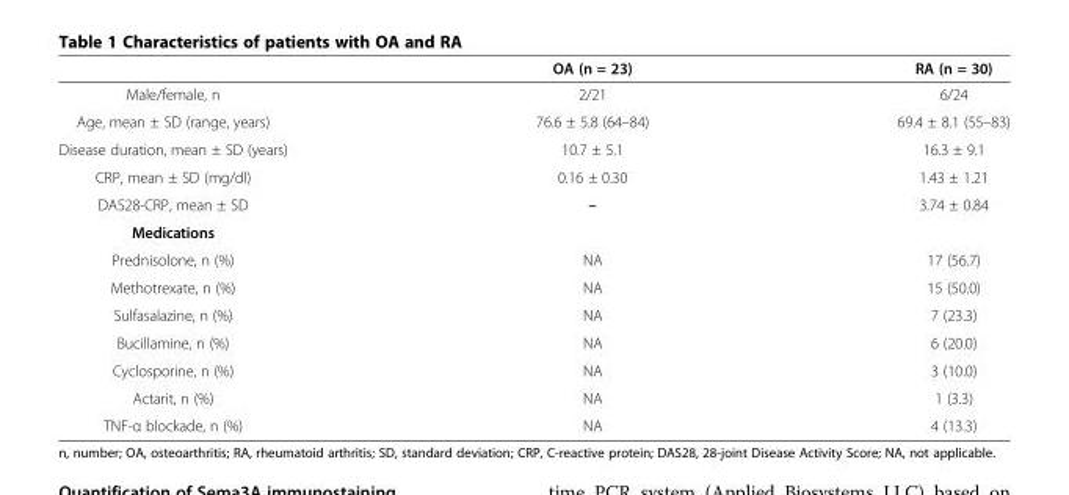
<table><thead><tr><td></td><td>OA (n = 23)</td><td>RA (n = 30)</td></tr></thead><tbody><tr><td>Male/female, n</td><td>2/21</td><td>6/24</td></tr><tr><td>Age, mean ± SD (range, years)</td><td>76.6 ± 5.8 (64–84)</td><td>69.4 ± 8.1 (55–83)</td></tr><tr><td>Disease duration, mean ± SD (years)</td><td>10.7 ± 5.1</td><td>16.3 ± 9.1</td></tr><tr><td>CRP, mean ± SD (mg/dl)</td><td>0.16 ± 0.30</td><td>1.43 ± 1.21</td></tr><tr><td>DAS28-CRP, mean ± SD</td><td>–</td><td>3.74 ± 0.84</td></tr><tr><td colspan="3">Medications</td></tr><tr><td>Prednisolone, n (%)</td><td>NA</td><td>17 (56.7)</td></tr><tr><td>Methotrexate, n (%)</td><td>NA</td><td>15 (50.0)</td></tr><tr><td>Sulfasalazine, n (%)</td><td>NA</td><td>7 (23.3)</td></tr><tr><td>Bucillamine, n (%)</td><td>NA</td><td>6 (20.0)</td></tr><tr><td>Cyclosporine, n (%)</td><td>NA</td><td>3 (10.0)</td></tr><tr><td>Actarit, n (%)</td><td>NA</td><td>1 (3.3)</td></tr><tr><td>TNF-α blockade, n (%)</td><td>NA</td><td>4 (13.3)</td></tr></tbody></table>